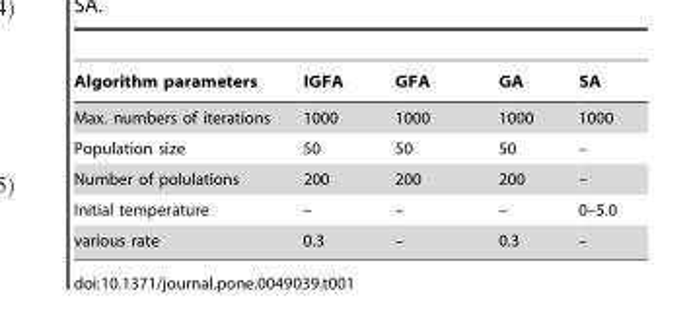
<table><thead><tr><td>Algorithm parameters</td><td>IGFA</td><td>GFA</td><td>GA</td><td>SA</td></tr></thead><tbody><tr><td>Max. numbers of iterations</td><td>1000</td><td>1000</td><td>1000</td><td>1000</td></tr><tr><td>Population size</td><td>50</td><td>50</td><td>50</td><td>–</td></tr><tr><td>Number of polulations</td><td>200</td><td>200</td><td>200</td><td>–</td></tr><tr><td>Initial temperature</td><td>–</td><td>–</td><td>–</td><td>0–5.0</td></tr><tr><td>various rate</td><td>0.3</td><td>–</td><td>0.3</td><td>–</td></tr></tbody></table>